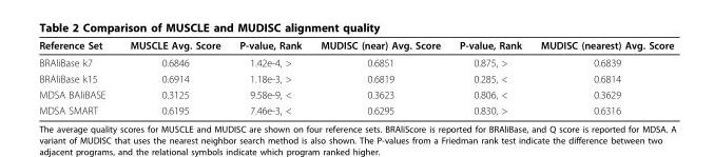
<table><thead><tr><td>Reference Set</td><td>MUSCLE Avg. Score</td><td>P-value, Rank</td><td>MUDISC (near) Avg. Score</td><td>P-value, Rank</td><td>MUDISC (nearest) Avg. Score</td></tr></thead><tbody><tr><td>BRAliBase k7</td><td>0.6846</td><td>1.42e-4, &gt;</td><td>0.6851</td><td>0.875, &gt;</td><td>0.6839</td></tr><tr><td>BRAliBase k15</td><td>0.6914</td><td>1.18e-3, &gt;</td><td>0.6819</td><td>0.285, &lt;</td><td>0.6814</td></tr><tr><td>MDSA BAliBASE</td><td>0.3125</td><td>9.58e-9, &lt;</td><td>0.3623</td><td>0.806, &lt;</td><td>0.3629</td></tr><tr><td>MDSA SMART</td><td>0.6195</td><td>7.46e-3, &lt;</td><td>0.6295</td><td>0.830, &gt;</td><td>0.6316</td></tr></tbody></table>